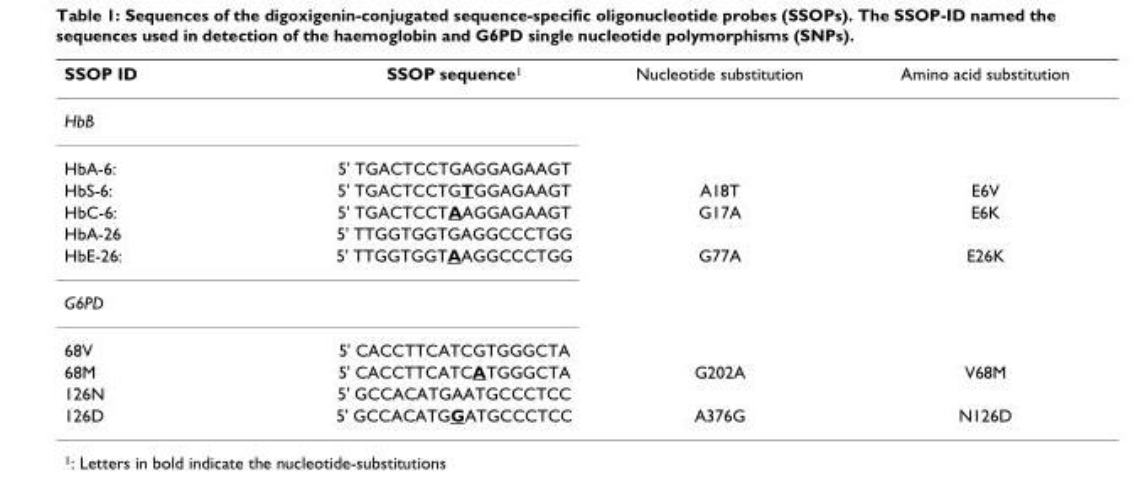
<table><thead><tr><td>SSOP ID</td><td>SSOP sequence<sup>1</sup></td><td>Nucleotide substitution</td><td>Amino acid substitution</td></tr></thead><tbody><tr><td colspan="4">HbB</td></tr><tr><td>HbA-6:</td><td>5&#x27; TGACTCCTGAGGAGAAGT</td><td></td><td></td></tr><tr><td>HbS-6:</td><td>5&#x27; TGACTCCTGTGGAGAAGT</td><td>A18T</td><td>E6V</td></tr><tr><td>HbC-6:</td><td>5&#x27; TGACTCCTAAGGAGAAGT</td><td>G17A</td><td>E6K</td></tr><tr><td>HbA-26</td><td>5&#x27; TTGGTGGTGAGGCCCTGG</td><td></td><td></td></tr><tr><td>HbE-26:</td><td>5&#x27; TTGGTGGTAAGGCCCTGG</td><td>G77A</td><td>E26K</td></tr><tr><td colspan="4">G6PD</td></tr><tr><td>68V</td><td>5&#x27; CACCTTCATCGTGGGCTA</td><td></td><td></td></tr><tr><td>68M</td><td>5&#x27; CACCTTCATCATGGGCTA</td><td>G202A</td><td>V68M</td></tr><tr><td>126N</td><td>5&#x27; GCCACATGAATGCCCTCC</td><td></td><td></td></tr><tr><td>126D</td><td>5&#x27; GCCACATGGATGCCCTCC</td><td>A376G</td><td>N126D</td></tr></tbody></table>